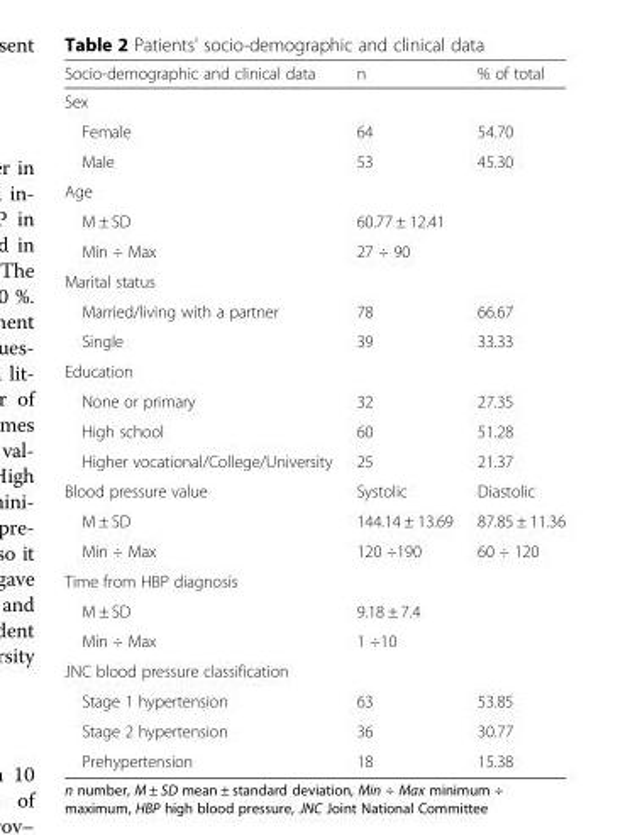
<table><thead><tr><td>Socio-demographic and clinical data</td><td>n</td><td>% of total</td></tr></thead><tbody><tr><td colspan="3">Sex</td></tr><tr><td>Female</td><td>64</td><td>54.70</td></tr><tr><td>Male</td><td>53</td><td>45.30</td></tr><tr><td colspan="3">Age</td></tr><tr><td>M ± SD</td><td>60.77 ± 12.41</td><td rowspan="2"></td></tr><tr><td>Min ÷ Max</td><td>27 ÷ 90</td></tr><tr><td colspan="3">Marital status</td></tr><tr><td>Married/living with a partner</td><td>78</td><td>66.67</td></tr><tr><td>Single</td><td>39</td><td>33.33</td></tr><tr><td colspan="3">Education</td></tr><tr><td>None or primary</td><td>32</td><td>27.35</td></tr><tr><td>High school</td><td>60</td><td>51.28</td></tr><tr><td>Higher vocational/College/University</td><td>25</td><td>21.37</td></tr><tr><td>Blood pressure value</td><td>Systolic</td><td>Diastolic</td></tr><tr><td>M ± SD</td><td>144.14 ± 13.69</td><td>87.85 ± 11.36</td></tr><tr><td>Min ÷ Max</td><td>120 ÷190</td><td>60 ÷ 120</td></tr><tr><td colspan="3">Time from HBP diagnosis</td></tr><tr><td>M ± SD</td><td>9.18 ± 7.4</td><td rowspan="2"></td></tr><tr><td>Min ÷ Max</td><td>1 ÷10</td></tr><tr><td colspan="3">JNC blood pressure classification</td></tr><tr><td>Stage 1 hypertension</td><td>63</td><td>53.85</td></tr><tr><td>Stage 2 hypertension</td><td>36</td><td>30.77</td></tr><tr><td>Prehypertension</td><td>18</td><td>15.38</td></tr></tbody></table>